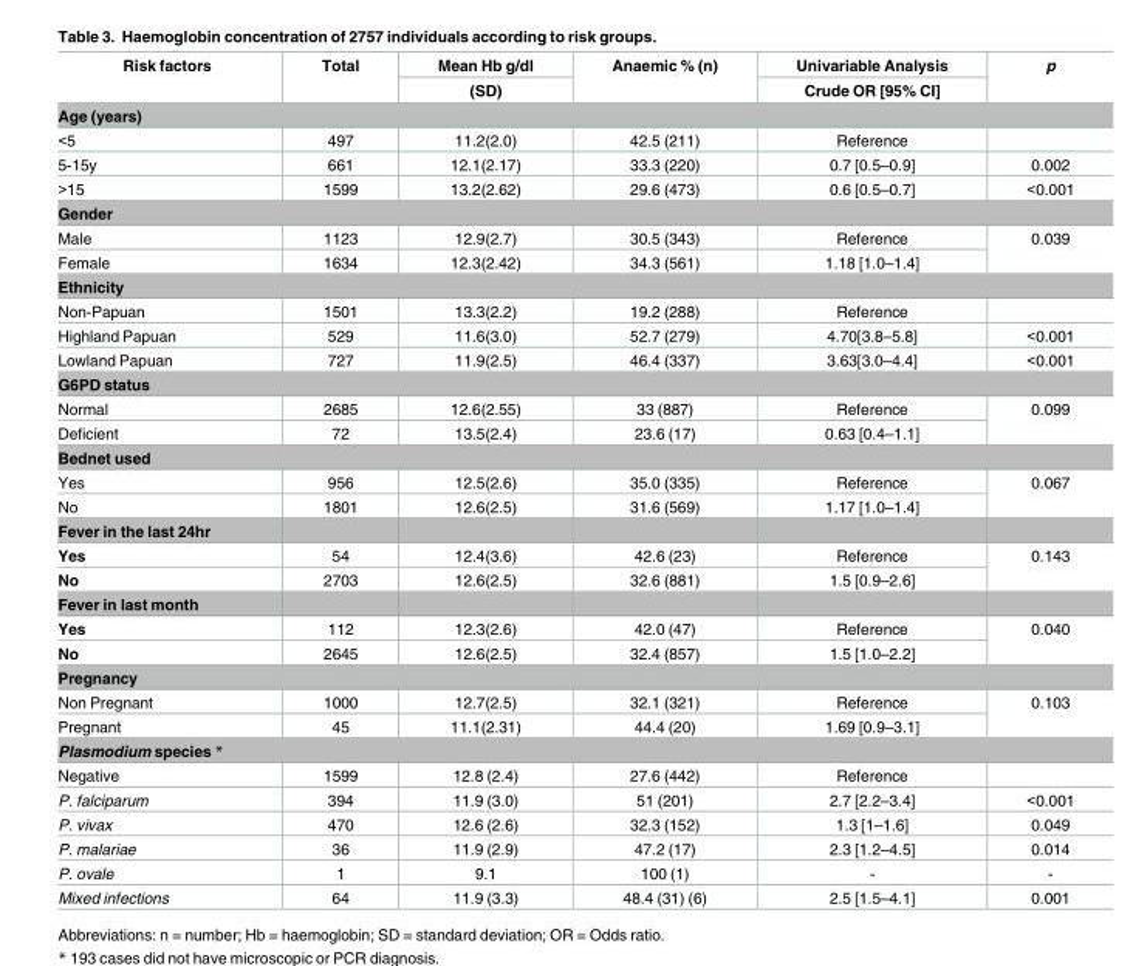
<table><thead><tr><td rowspan="2">Risk factors</td><td rowspan="2">Total</td><td rowspan="2">Mean Hb g/dl (SD)</td><td rowspan="2">Anaemic % (n)</td><td rowspan="2">Univariable Analysis Crude OR [95% CI]</td><td rowspan="2">p</td></tr><tr></tr></thead><tbody><tr><td colspan="6">Age (years)</td></tr><tr><td>&lt;5</td><td>497</td><td>11.2(2.0)</td><td>42.5 (211)</td><td>Reference</td><td></td></tr><tr><td>5-15y</td><td>661</td><td>12.1(2.17)</td><td>33.3 (220)</td><td>0.7 [0.5–0.9]</td><td>0.002</td></tr><tr><td>&gt;15</td><td>1599</td><td>13.2(2.62)</td><td>29.6 (473)</td><td>0.6 [0.5–0.7]</td><td>&lt;0.001</td></tr><tr><td colspan="6">Gender</td></tr><tr><td>Male</td><td>1123</td><td>12.9(2.7)</td><td>30.5 (343)</td><td>Reference</td><td rowspan="2">0.039</td></tr><tr><td>Female</td><td>1634</td><td>12.3(2.42)</td><td>34.3 (561)</td><td>1.18 [1.0–1.4]</td></tr><tr><td colspan="6">Ethnicity</td></tr><tr><td>Non-Papuan</td><td>1501</td><td>13.3(2.2)</td><td>19.2 (288)</td><td>Reference</td><td></td></tr><tr><td>Highland Papuan</td><td>529</td><td>11.6(3.0)</td><td>52.7 (279)</td><td>4.70[3.8–5.8]</td><td>&lt;0.001</td></tr><tr><td>Lowland Papuan</td><td>727</td><td>11.9(2.5)</td><td>46.4 (337)</td><td>3.63[3.0–4.4]</td><td>&lt;0.001</td></tr><tr><td colspan="6">G6PD status</td></tr><tr><td>Normal</td><td>2685</td><td>12.6(2.55)</td><td>33 (887)</td><td>Reference</td><td rowspan="2">0.099</td></tr><tr><td>Deficient</td><td>72</td><td>13.5(2.4)</td><td>23.6 (17)</td><td>0.63 [0.4–1.1]</td></tr><tr><td colspan="6">Bednet used</td></tr><tr><td>Yes</td><td>956</td><td>12.5(2.6)</td><td>35.0 (335)</td><td>Reference</td><td rowspan="2">0.067</td></tr><tr><td>No</td><td>1801</td><td>12.6(2.5)</td><td>31.6 (569)</td><td>1.17 [1.0–1.4]</td></tr><tr><td colspan="6">Fever in the last 24hr</td></tr><tr><td>Yes</td><td>54</td><td>12.4(3.6)</td><td>42.6 (23)</td><td>Reference</td><td rowspan="2">0.143</td></tr><tr><td>No</td><td>2703</td><td>12.6(2.5)</td><td>32.6 (881)</td><td>1.5 [0.9–2.6]</td></tr><tr><td colspan="6">Fever in last month</td></tr><tr><td>Yes</td><td>112</td><td>12.3(2.6)</td><td>42.0 (47)</td><td>Reference</td><td rowspan="2">0.040</td></tr><tr><td>No</td><td>2645</td><td>12.6(2.5)</td><td>32.4 (857)</td><td>1.5 [1.0–2.2]</td></tr><tr><td colspan="6">Pregnancy</td></tr><tr><td>Non Pregnant</td><td>1000</td><td>12.7(2.5)</td><td>32.1 (321)</td><td>Reference</td><td rowspan="2">0.103</td></tr><tr><td>Pregnant</td><td>45</td><td>11.1(2.31)</td><td>44.4 (20)</td><td>1.69 [0.9–3.1]</td></tr><tr><td colspan="6">Plasmodium species *</td></tr><tr><td>Negative</td><td>1599</td><td>12.8 (2.4)</td><td>27.6 (442)</td><td>Reference</td><td></td></tr><tr><td>P. falciparum</td><td>394</td><td>11.9 (3.0)</td><td>51 (201)</td><td>2.7 [2.2–3.4]</td><td>&lt;0.001</td></tr><tr><td>P. vivax</td><td>470</td><td>12.6 (2.6)</td><td>32.3 (152)</td><td>1.3 [1–1.6]</td><td>0.049</td></tr><tr><td>P. malariae</td><td>36</td><td>11.9 (2.9)</td><td>47.2 (17)</td><td>2.3 [1.2–4.5]</td><td>0.014</td></tr><tr><td>P. ovale</td><td>1</td><td>9.1</td><td>100 (1)</td><td>-</td><td>-</td></tr><tr><td>Mixed infections</td><td>64</td><td>11.9 (3.3)</td><td>48.4 (31) (6)</td><td>2.5 [1.5–4.1]</td><td>0.001</td></tr></tbody></table>